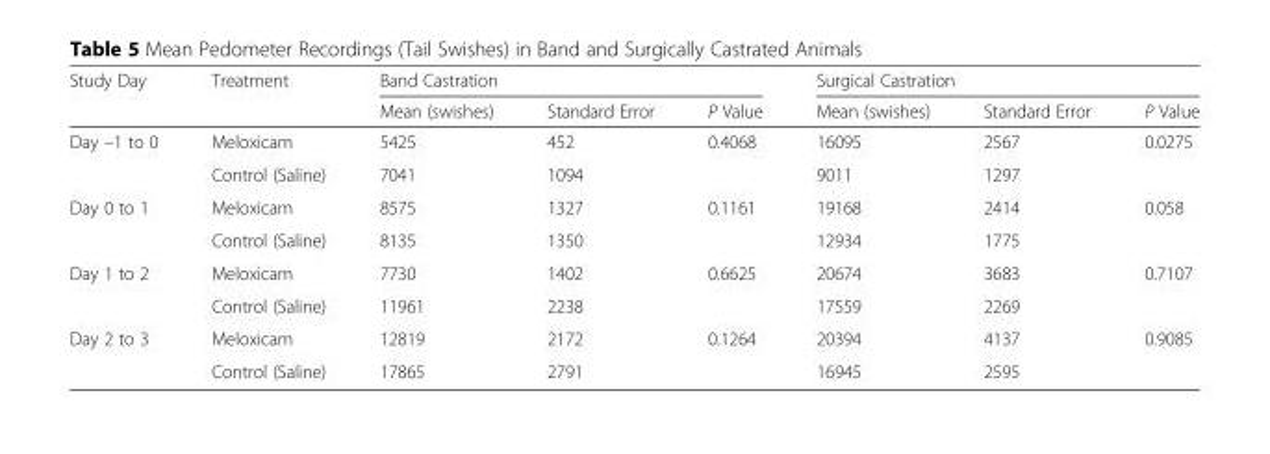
<table><thead><tr><td rowspan="2">Study Day</td><td rowspan="2">Treatment</td><td colspan="3">Band Castration</td><td colspan="3">Surgical Castration</td></tr><tr><td>Mean (swishes)</td><td>Standard Error</td><td>P Value</td><td>Mean (swishes)</td><td>Standard Error</td><td>P Value</td></tr></thead><tbody><tr><td rowspan="2">Day –1 to 0</td><td>Meloxicam</td><td>5425</td><td>452</td><td rowspan="2">0.4068</td><td>16095</td><td>2567</td><td rowspan="2">0.0275</td></tr><tr><td>Control (Saline)</td><td>7041</td><td>1094</td><td>9011</td><td>1297</td></tr><tr><td rowspan="2">Day 0 to 1</td><td>Meloxicam</td><td>8575</td><td>1327</td><td rowspan="2">0.1161</td><td>19168</td><td>2414</td><td rowspan="2">0.058</td></tr><tr><td>Control (Saline)</td><td>8135</td><td>1350</td><td>12934</td><td>1775</td></tr><tr><td rowspan="2">Day 1 to 2</td><td>Meloxicam</td><td>7730</td><td>1402</td><td rowspan="2">0.6625</td><td>20674</td><td>3683</td><td rowspan="2">0.7107</td></tr><tr><td>Control (Saline)</td><td>11961</td><td>2238</td><td>17559</td><td>2269</td></tr><tr><td rowspan="2">Day 2 to 3</td><td>Meloxicam</td><td>12819</td><td>2172</td><td rowspan="2">0.1264</td><td>20394</td><td>4137</td><td rowspan="2">0.9085</td></tr><tr><td>Control (Saline)</td><td>17865</td><td>2791</td><td>16945</td><td>2595</td></tr></tbody></table>